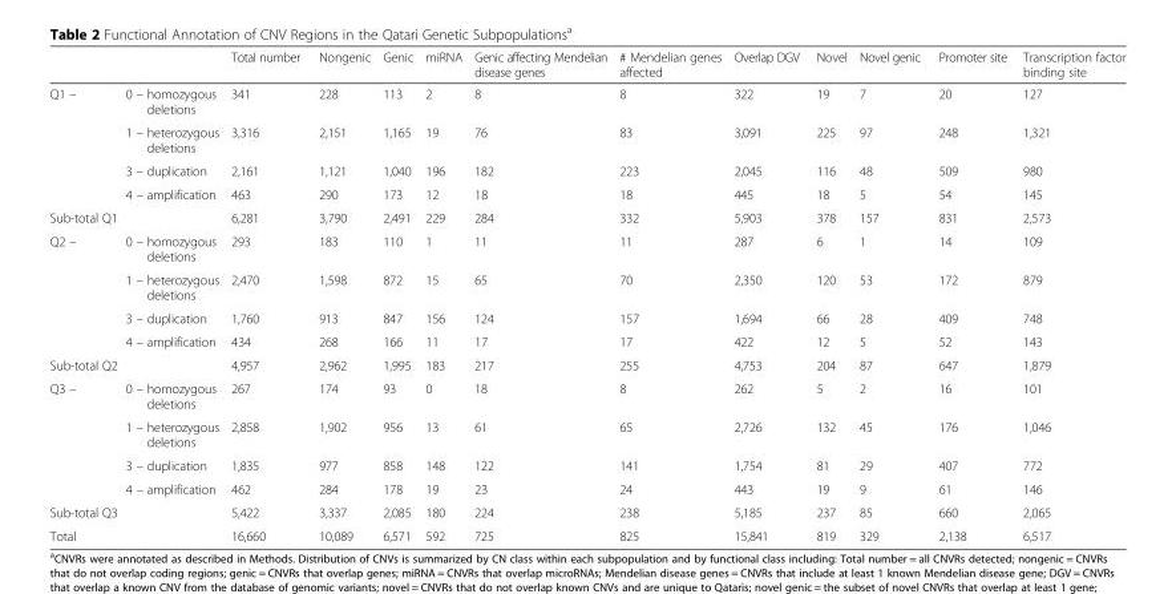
<table><thead><tr><td></td><td></td><td>Total number</td><td>Nongenic</td><td>Genic</td><td>miRNA</td><td>Genic affecting Mendelian disease genes</td><td># Mendelian genes affected</td><td>Overlap DGV</td><td>Novel</td><td>Novel genic</td><td>Promoter site</td><td>Transcription factor binding site</td></tr></thead><tbody><tr><td rowspan="4">Q1 –</td><td>0 – homozygous deletions</td><td>341</td><td>228</td><td>113</td><td>2</td><td>8</td><td>8</td><td>322</td><td>19</td><td>7</td><td>20</td><td>127</td></tr><tr><td>1 – heterozygous deletions</td><td>3,316</td><td>2,151</td><td>1,165</td><td>19</td><td>76</td><td>83</td><td>3,091</td><td>225</td><td>97</td><td>248</td><td>1,321</td></tr><tr><td>3 – duplication</td><td>2,161</td><td>1,121</td><td>1,040</td><td>196</td><td>182</td><td>223</td><td>2,045</td><td>116</td><td>48</td><td>509</td><td>980</td></tr><tr><td>4 – amplification</td><td>463</td><td>290</td><td>173</td><td>12</td><td>18</td><td>18</td><td>445</td><td>18</td><td>5</td><td>54</td><td>145</td></tr><tr><td colspan="2">Sub-total Q1</td><td>6,281</td><td>3,790</td><td>2,491</td><td>229</td><td>284</td><td>332</td><td>5,903</td><td>378</td><td>157</td><td>831</td><td>2,573</td></tr><tr><td rowspan="4">Q2 –</td><td>0 – homozygous deletions</td><td>293</td><td>183</td><td>110</td><td>1</td><td>11</td><td>11</td><td>287</td><td>6</td><td>1</td><td>14</td><td>109</td></tr><tr><td>1 – heterozygous deletions</td><td>2,470</td><td>1,598</td><td>872</td><td>15</td><td>65</td><td>70</td><td>2,350</td><td>120</td><td>53</td><td>172</td><td>879</td></tr><tr><td>3 – duplication</td><td>1,760</td><td>913</td><td>847</td><td>156</td><td>124</td><td>157</td><td>1,694</td><td>66</td><td>28</td><td>409</td><td>748</td></tr><tr><td>4 – amplification</td><td>434</td><td>268</td><td>166</td><td>11</td><td>17</td><td>17</td><td>422</td><td>12</td><td>5</td><td>52</td><td>143</td></tr><tr><td colspan="2">Sub-total Q2</td><td>4,957</td><td>2,962</td><td>1,995</td><td>183</td><td>217</td><td>255</td><td>4,753</td><td>204</td><td>87</td><td>647</td><td>1,879</td></tr><tr><td rowspan="4">Q3 –</td><td>0 – homozygous deletions</td><td>267</td><td>174</td><td>93</td><td>0</td><td>18</td><td>8</td><td>262</td><td>5</td><td>2</td><td>16</td><td>101</td></tr><tr><td>1 – heterozygous deletions</td><td>2,858</td><td>1,902</td><td>956</td><td>13</td><td>61</td><td>65</td><td>2,726</td><td>132</td><td>45</td><td>176</td><td>1,046</td></tr><tr><td>3 – duplication</td><td>1,835</td><td>977</td><td>858</td><td>148</td><td>122</td><td>141</td><td>1,754</td><td>81</td><td>29</td><td>407</td><td>772</td></tr><tr><td>4 – amplification</td><td>462</td><td>284</td><td>178</td><td>19</td><td>23</td><td>24</td><td>443</td><td>19</td><td>9</td><td>61</td><td>146</td></tr><tr><td colspan="2">Sub-total Q3</td><td>5,422</td><td>3,337</td><td>2,085</td><td>180</td><td>224</td><td>238</td><td>5,185</td><td>237</td><td>85</td><td>660</td><td>2,065</td></tr><tr><td colspan="2">Total</td><td>16,660</td><td>10,089</td><td>6,571</td><td>592</td><td>725</td><td>825</td><td>15,841</td><td>819</td><td>329</td><td>2,138</td><td>6,517</td></tr></tbody></table>